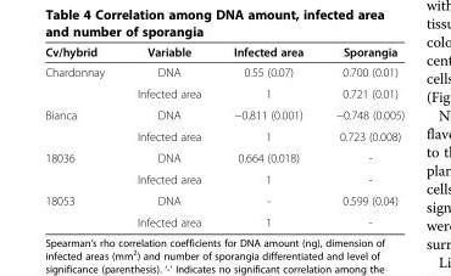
<table><thead><tr><td>Cv/hybrid</td><td>Variable</td><td>Infected area</td><td>Sporangia</td></tr></thead><tbody><tr><td rowspan="2">Chardonnay</td><td>DNA</td><td>0.55 (0.07)</td><td>0.700 (0.01)</td></tr><tr><td>Infected area</td><td>1</td><td>0.721 (0.01)</td></tr><tr><td rowspan="2">Bianca</td><td>DNA</td><td>−0.811 (0.001)</td><td>−0.748 (0.005)</td></tr><tr><td>Infected area</td><td>1</td><td>0.723 (0.008)</td></tr><tr><td rowspan="2">18036</td><td>DNA</td><td>0.664 (0.018)</td><td>-</td></tr><tr><td>Infected area</td><td>1</td><td>-</td></tr><tr><td rowspan="2">18053</td><td>DNA</td><td>-</td><td>0.599 (0.04)</td></tr><tr><td>Infected area</td><td>1</td><td>-</td></tr></tbody></table>